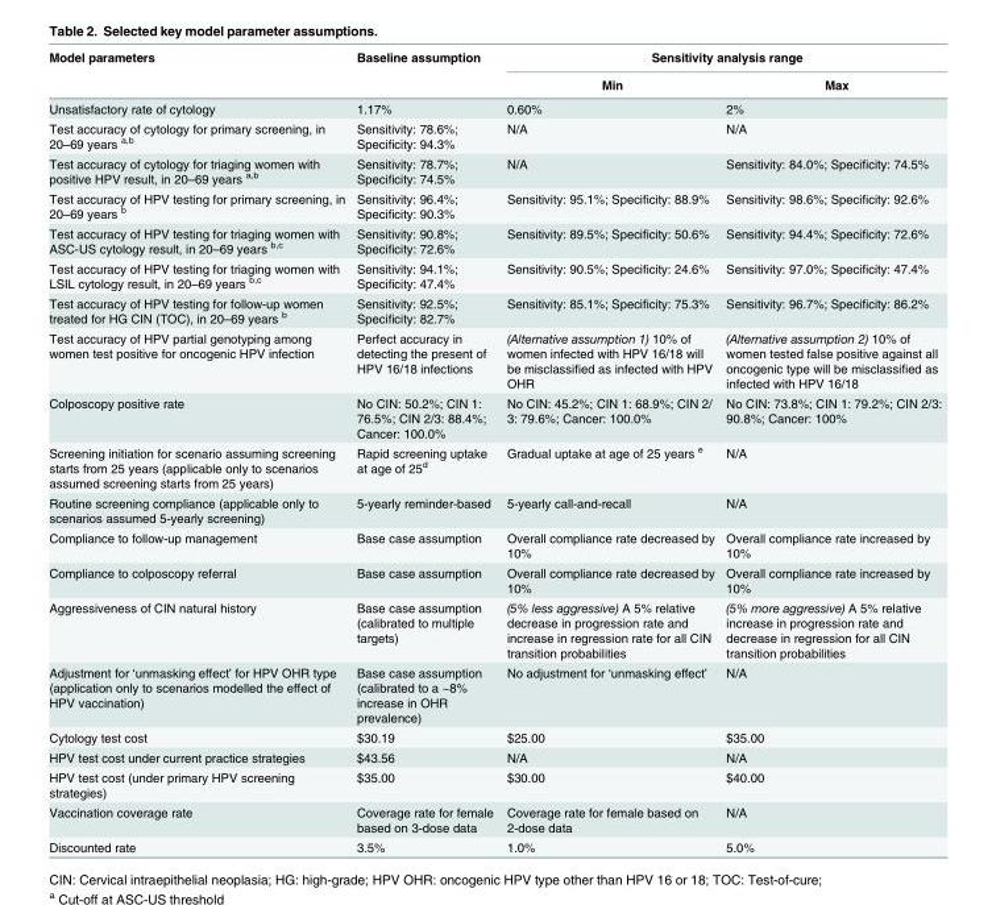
<table><thead><tr><td rowspan="2">Model parameters</td><td rowspan="2">Baseline assumption</td><td colspan="2">Sensitivity analysis range</td></tr><tr><td>Min</td><td>Max</td></tr></thead><tbody><tr><td>Unsatisfactory rate of cytology</td><td>1.17%</td><td>0.60%</td><td>2%</td></tr><tr><td>Test accuracy of cytology for primary screening, in 20–69 years <sup>a,b</sup></td><td>Sensitivity: 78.6%; Specificity: 94.3%</td><td>N/A</td><td>N/A</td></tr><tr><td>Test accuracy of cytology for triaging women with positive HPV result, in 20–69 years <sup>a,b</sup></td><td>Sensitivity: 78.7%; Specificity: 74.5%</td><td>N/A</td><td>Sensitivity: 84.0%; Specificity: 74.5%</td></tr><tr><td>Test accuracy of HPV testing for primary screening, in 20–69 years <sup>b</sup></td><td>Sensitivity: 96.4%; Specificity: 90.3%</td><td>Sensitivity: 95.1%; Specificity: 88.9%</td><td>Sensitivity: 98.6%; Specificity: 92.6%</td></tr><tr><td>Test accuracy of HPV testing for triaging women with ASC-US cytology result, in 20–69 years <sup>b,c</sup></td><td>Sensitivity: 90.8%; Specificity: 72.6%</td><td>Sensitivity: 89.5%; Specificity: 50.6%</td><td>Sensitivity: 94.4%; Specificity: 72.6%</td></tr><tr><td>Test accuracy of HPV testing for triaging women with LSIL cytology result, in 20–69 years <sup>b,c</sup></td><td>Sensitivity: 94.1%; Specificity: 47.4%</td><td>Sensitivity: 90.5%; Specificity: 24.6%</td><td>Sensitivity: 97.0%; Specificity: 47.4%</td></tr><tr><td>Test accuracy of HPV testing for follow-up women treated for HG CIN (TOC), in 20–69 years <sup>b</sup></td><td>Sensitivity: 92.5%; Specificity: 82.7%</td><td>Sensitivity: 85.1%; Specificity: 75.3%</td><td>Sensitivity: 96.7%; Specificity: 86.2%</td></tr><tr><td>Test accuracy of HPV partial genotyping among women test positive for oncogenic HPV infection</td><td>Perfect accuracy in detecting the present of HPV 16/18 infections</td><td>(Alternative assumption 1) 10% of women infected with HPV 16/18 will be misclassified as infected with HPV OHR</td><td>(Alternative assumption 2) 10% of women tested false positive against all oncogenic type will be misclassified as infected with HPV 16/18</td></tr><tr><td>Colposcopy positive rate</td><td>No CIN: 50.2%; CIN 1: 76.5%; CIN 2/3: 88.4%; Cancer: 100.0%</td><td>No CIN: 45.2%; CIN 1: 68.9%; CIN 2/ 3: 79.6%; Cancer: 100.0%</td><td>No CIN: 73.8%; CIN 1: 79.2%; CIN 2/3: 90.8%; Cancer: 100%</td></tr><tr><td>Screening initiation for scenario assuming screening starts from 25 years (applicable only to scenarios assumed screening starts from 25 years)</td><td>Rapid screening uptake at age of 25<sup>d</sup></td><td>Gradual uptake at age of 25 years <sup>e</sup></td><td>N/A</td></tr><tr><td>Routine screening compliance (applicable only to scenarios assumed 5-yearly screening)</td><td>5-yearly reminder-based</td><td>5-yearly call-and-recall</td><td>N/A</td></tr><tr><td>Compliance to follow-up management</td><td>Base case assumption</td><td>Overall compliance rate decreased by 10%</td><td>Overall compliance rate increased by 10%</td></tr><tr><td>Compliance to colposcopy referral</td><td>Base case assumption</td><td>Overall compliance rate decreased by 10%</td><td>Overall compliance rate increased by 10%</td></tr><tr><td>Aggressiveness of CIN natural history</td><td>Base case assumption (calibrated to multiple targets)</td><td>(5% less aggressive) A 5% relative decrease in progression rate and increase in regression rate for all CIN transition probabilities</td><td>(5% more aggressive) A 5% relative increase in progression rate and decrease in regression for all CIN transition probabilities</td></tr><tr><td>Adjustment for ‘unmasking effect’ for HPV OHR type (application only to scenarios modelled the effect of HPV vaccination)</td><td>Base case assumption (calibrated to a ~8% increase in OHR prevalence)</td><td>No adjustment for ‘unmasking effect’</td><td>N/A</td></tr><tr><td>Cytology test cost</td><td>$30.19</td><td>$25.00</td><td>$35.00</td></tr><tr><td>HPV test cost under current practice strategies</td><td>$43.56</td><td>N/A</td><td>N/A</td></tr><tr><td>HPV test cost (under primary HPV screening strategies)</td><td>$35.00</td><td>$30.00</td><td>$40.00</td></tr><tr><td>Vaccination coverage rate</td><td>Coverage rate for female based on 3-dose data</td><td>Coverage rate for female based on 2-dose data</td><td>N/A</td></tr><tr><td>Discounted rate</td><td>3.5%</td><td>1.0%</td><td>5.0%</td></tr></tbody></table>